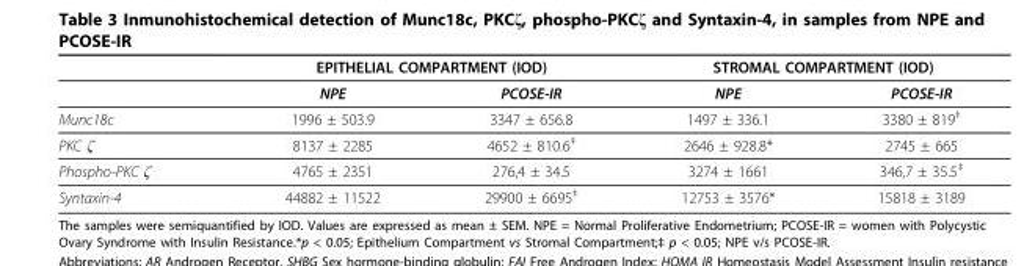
<table><thead><tr><td rowspan="2"></td><td colspan="2">EPITHELIAL COMPARTMENT (IOD)</td><td colspan="2">STROMAL COMPARTMENT (IOD)</td></tr><tr><td>NPE</td><td>PCOSE-IR</td><td>NPE</td><td>PCOSE-IR</td></tr></thead><tbody><tr><td>Munc18c</td><td>1996 ± 503.9</td><td>3347 ± 656.8</td><td>1497 ± 336.1</td><td>3380 ± 819<sup>‡</sup></td></tr><tr><td>PKC ζ</td><td>8137 ± 2285</td><td>4652 ± 810.6<sup>‡</sup></td><td>2646 ± 928.8*</td><td>2745 ± 665</td></tr><tr><td>Phospho-PKC ζ</td><td>4765 ± 2351</td><td>276,4 ± 34.5</td><td>3274 ± 1661</td><td>346,7 ± 35.5<sup>‡</sup></td></tr><tr><td>Syntaxin-4</td><td>44882 ± 11522</td><td>29900 ± 6695<sup>‡</sup></td><td>12753 ± 3576*</td><td>15818 ± 3189</td></tr></tbody></table>